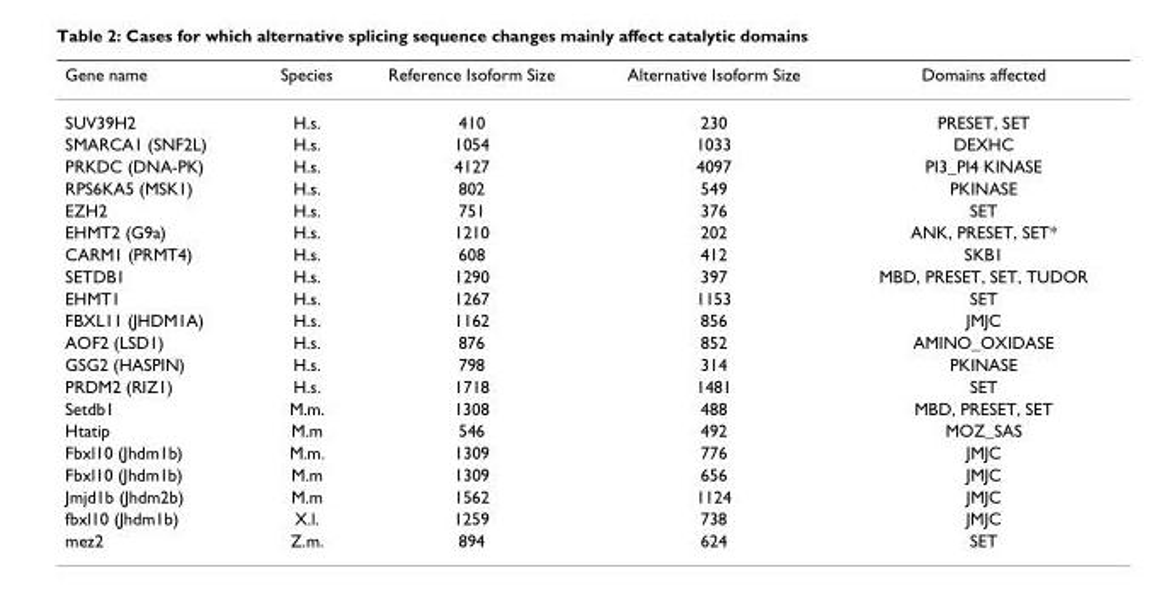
<table><thead><tr><td>Gene name</td><td>Species</td><td>Reference Isoform Size</td><td>Alternative Isoform Size</td><td>Domains affected</td></tr></thead><tbody><tr><td>SUV39H2</td><td>H.s.</td><td>410</td><td>230</td><td>PRESET, SET</td></tr><tr><td>SMARCA1 (SNF2L)</td><td>H.s.</td><td>1054</td><td>1033</td><td>DEXHC</td></tr><tr><td>PRKDC (DNA-PK)</td><td>H.s.</td><td>4127</td><td>4097</td><td>PI3_PI4 KINASE</td></tr><tr><td>RPS6KA5 (MSK1)</td><td>H.s.</td><td>802</td><td>549</td><td>PKINASE</td></tr><tr><td>EZH2</td><td>H.s.</td><td>751</td><td>376</td><td>SET</td></tr><tr><td>EHMT2 (G9a)</td><td>H.s.</td><td>1210</td><td>202</td><td>ANK, PRESET, SET*</td></tr><tr><td>CARM1 (PRMT4)</td><td>H.s.</td><td>608</td><td>412</td><td>SKB1</td></tr><tr><td>SETDB1</td><td>H.s.</td><td>1290</td><td>397</td><td>MBD, PRESET, SET, TUDOR</td></tr><tr><td>EHMT1</td><td>H.s.</td><td>1267</td><td>1153</td><td>SET</td></tr><tr><td>FBXL11 (JHDM1A)</td><td>H.s.</td><td>1162</td><td>856</td><td>JMJC</td></tr><tr><td>AOF2 (LSD1)</td><td>H.s.</td><td>876</td><td>852</td><td>AMINO_OXIDASE</td></tr><tr><td>GSG2 (HASPIN)</td><td>H.s.</td><td>798</td><td>314</td><td>PKINASE</td></tr><tr><td>PRDM2 (RIZ1)</td><td>H.s.</td><td>1718</td><td>1481</td><td>SET</td></tr><tr><td>Setdb1</td><td>M.m.</td><td>1308</td><td>488</td><td>MBD, PRESET, SET</td></tr><tr><td>Htatip</td><td>M.m</td><td>546</td><td>492</td><td>MOZ_SAS</td></tr><tr><td>Fbxl10 (Jhdm1b)</td><td>M.m.</td><td>1309</td><td>776</td><td>JMJC</td></tr><tr><td>Fbxl10 (Jhdm1b)</td><td>M.m</td><td>1309</td><td>656</td><td>JMJC</td></tr><tr><td>Jmjd1b (Jhdm2b)</td><td>M.m</td><td>1562</td><td>1124</td><td>JMJC</td></tr><tr><td>fbxl10 (Jhdm1b)</td><td>X.l.</td><td>1259</td><td>738</td><td>JMJC</td></tr><tr><td>mez2</td><td>Z.m.</td><td>894</td><td>624</td><td>SET</td></tr></tbody></table>